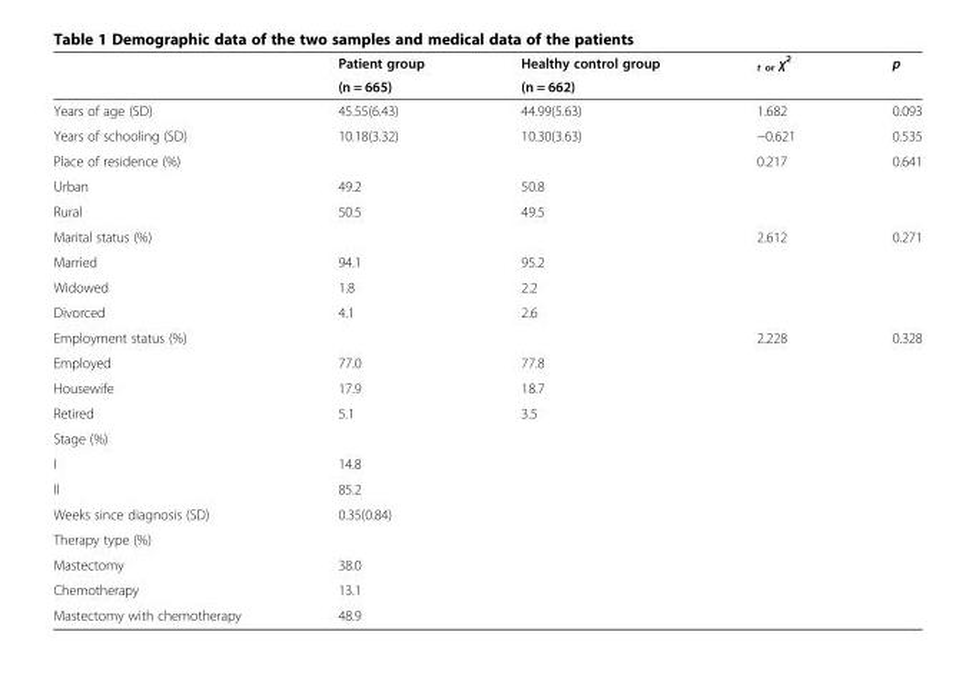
<table><thead><tr><td rowspan="2"></td><td rowspan="2">Patient group (n = 665)</td><td rowspan="2">Healthy control group (n = 662)</td><td rowspan="2"><sub>t or</sub> χ<sup>2</sup></td><td rowspan="2">p</td></tr><tr></tr></thead><tbody><tr><td>Years of age (SD)</td><td>45.55(6.43)</td><td>44.99(5.63)</td><td>1.682</td><td>0.093</td></tr><tr><td>Years of schooling (SD)</td><td>10.18(3.32)</td><td>10.30(3.63)</td><td>−0.621</td><td>0.535</td></tr><tr><td>Place of residence (%)</td><td></td><td></td><td>0.217</td><td>0.641</td></tr><tr><td>Urban</td><td>49.2</td><td>50.8</td><td></td><td></td></tr><tr><td>Rural</td><td>50.5</td><td>49.5</td><td></td><td></td></tr><tr><td>Marital status (%)</td><td></td><td></td><td>2.612</td><td>0.271</td></tr><tr><td>Married</td><td>94.1</td><td>95.2</td><td></td><td></td></tr><tr><td>Widowed</td><td>1.8</td><td>2.2</td><td></td><td></td></tr><tr><td>Divorced</td><td>4.1</td><td>2.6</td><td></td><td></td></tr><tr><td>Employment status (%)</td><td></td><td></td><td>2.228</td><td>0.328</td></tr><tr><td>Employed</td><td>77.0</td><td>77.8</td><td></td><td></td></tr><tr><td>Housewife</td><td>17.9</td><td>18.7</td><td></td><td></td></tr><tr><td>Retired</td><td>5.1</td><td>3.5</td><td></td><td></td></tr><tr><td colspan="5">Stage (%)</td></tr><tr><td>I</td><td>14.8</td><td></td><td></td><td></td></tr><tr><td>II</td><td>85.2</td><td></td><td></td><td></td></tr><tr><td>Weeks since diagnosis (SD)</td><td>0.35(0.84)</td><td></td><td></td><td></td></tr><tr><td colspan="5">Therapy type (%)</td></tr><tr><td>Mastectomy</td><td>38.0</td><td></td><td></td><td></td></tr><tr><td>Chemotherapy</td><td>13.1</td><td></td><td></td><td></td></tr><tr><td>Mastectomy with chemotherapy</td><td>48.9</td><td></td><td></td><td></td></tr></tbody></table>